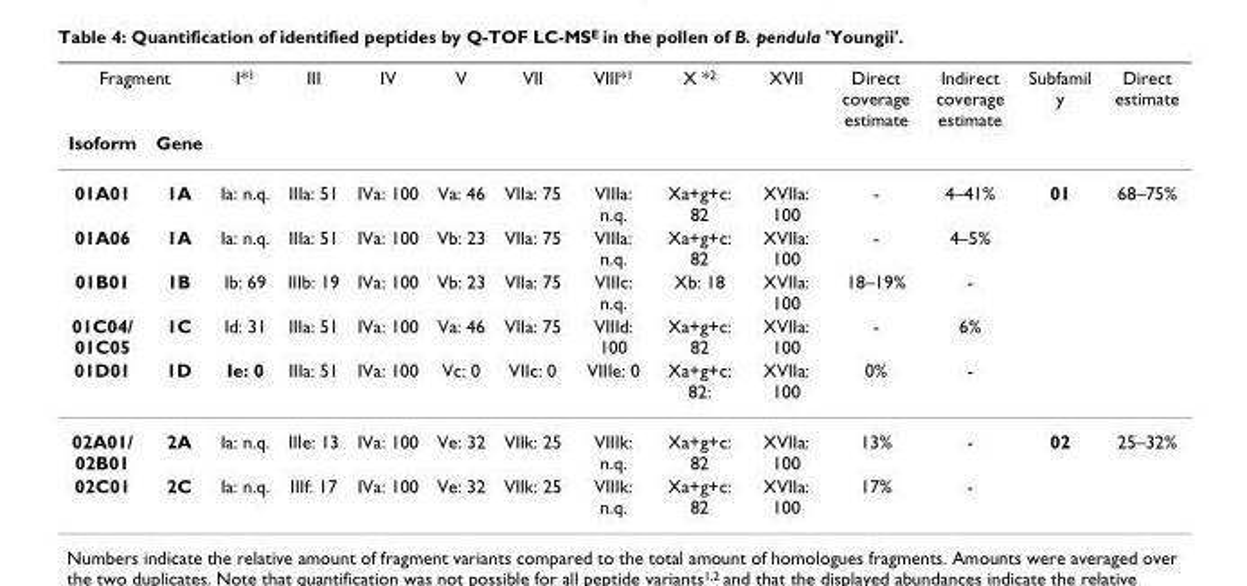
<table><thead><tr><td colspan="2">Fragment</td><td rowspan="2">I*<sup>1</sup></td><td rowspan="2">III</td><td rowspan="2">IV</td><td rowspan="2">V</td><td rowspan="2">VII</td><td rowspan="2">VIII*<sup>1</sup></td><td rowspan="2">X *<sup>2</sup></td><td rowspan="2">XVII</td><td rowspan="2">Direct coverage estimate</td><td rowspan="2">Indirect coverage estimate</td><td rowspan="2">Subfamil y</td><td rowspan="2">Direct estimate</td></tr><tr><td>Isoform</td><td>Gene</td></tr></thead><tbody><tr><td>01A01</td><td>1A</td><td>Ia: n.q.</td><td>IIIa: 51</td><td>IVa: 100</td><td>Va: 46</td><td>VIIa: 75</td><td>VIIIa: n.q.</td><td>Xa+g+c: 82</td><td>XVIIa: 100</td><td>-</td><td>4–41%</td><td>01</td><td>68–75%</td></tr><tr><td>01A06</td><td>1A</td><td>Ia: n.q.</td><td>IIIa: 51</td><td>IVa: 100</td><td>Vb: 23</td><td>VIIa: 75</td><td>VIIIa: n.q.</td><td>Xa+g+c: 82</td><td>XVIIa: 100</td><td>-</td><td>4–5%</td><td></td><td></td></tr><tr><td>01B01</td><td>1B</td><td>Ib: 69</td><td>IIIb: 19</td><td>IVa: 100</td><td>Vb: 23</td><td>VIIa: 75</td><td>VIIIc: n.q.</td><td>Xb: 18</td><td>XVIIa: 100</td><td>18–19%</td><td>-</td><td></td><td></td></tr><tr><td>01C04/ 01C05</td><td>1C</td><td>Id: 31</td><td>IIIa: 51</td><td>IVa: 100</td><td>Va: 46</td><td>VIIa: 75</td><td>VIIId: 100</td><td>Xa+g+c: 82</td><td>XVIIa: 100</td><td>-</td><td>6%</td><td></td><td></td></tr><tr><td>01D01</td><td>1D</td><td>Ie: 0</td><td>IIIa: 51</td><td>IVa: 100</td><td>Vc: 0</td><td>VIIc: 0</td><td>VIIIe: 0</td><td>Xa+g+c: 82:</td><td>XVIIa: 100</td><td>0%</td><td>-</td><td></td><td></td></tr><tr><td>02A01/ 02B01</td><td>2A</td><td>Ia: n.q.</td><td>IIIe: 13</td><td>IVa: 100</td><td>Ve: 32</td><td>VIIk: 25</td><td>VIIIk: n.q.</td><td>Xa+g+c: 82</td><td>XVIIa: 100</td><td>13%</td><td>-</td><td>02</td><td>25–32%</td></tr><tr><td>02C01</td><td>2C</td><td>Ia: n.q.</td><td>IIIf: 17</td><td>IVa: 100</td><td>Ve: 32</td><td>VIIk: 25</td><td>VIIIk: n.q.</td><td>Xa+g+c: 82</td><td>XVIIa: 100</td><td>17%</td><td>-</td><td></td><td></td></tr></tbody></table>